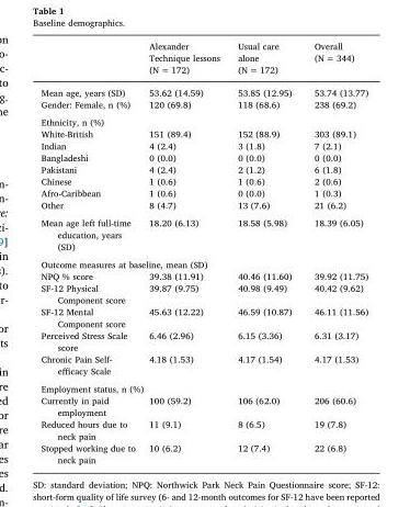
<table><thead><tr><td></td><td>Alexander Technique lessons (N = 172)</td><td>Usual care alone (N = 172)</td><td>Overall (N = 344)</td></tr></thead><tbody><tr><td>Mean age, years (SD)</td><td>53.62 (14.59)</td><td>53.85 (12.95)</td><td>53.74 (13.77)</td></tr><tr><td>Gender: Female, n (%)</td><td>120 (69.8)</td><td>118 (68.6)</td><td>238 (69.2)</td></tr><tr><td colspan="4">Ethnicity, n (%)</td></tr><tr><td>White-British</td><td>151 (89.4)</td><td>152 (88.9)</td><td>303 (89.1)</td></tr><tr><td>Indian</td><td>4 (2.4)</td><td>3 (1.8)</td><td>7 (2.1)</td></tr><tr><td>Bangladeshi</td><td>0 (0.0)</td><td>0 (0.0)</td><td>0 (0.0)</td></tr><tr><td>Pakistani</td><td>4 (2.4)</td><td>2 (1.2)</td><td>6 (1.8)</td></tr><tr><td>Chinese</td><td>1 (0.6)</td><td>1 (0.6)</td><td>2 (0.6)</td></tr><tr><td>Afro-Caribbean</td><td>1 (0.6)</td><td>0 (0.0)</td><td>1 (0.3)</td></tr><tr><td>Other</td><td>8 (4.7)</td><td>13 (7.6)</td><td>21 (6.2)</td></tr><tr><td>Mean age left full-time education, years (SD)</td><td>18.20 (6.13)</td><td>18.58 (5.98)</td><td>18.39 (6.05)</td></tr><tr><td colspan="4">Outcome measures at baseline, mean (SD)</td></tr><tr><td>NPQ % score</td><td>39.38 (11.91)</td><td>40.46 (11.60)</td><td>39.92 (11.75)</td></tr><tr><td>SF-12 Physical Component score</td><td>39.87 (9.75)</td><td>40.98 (9.49)</td><td>40.42 (9.62)</td></tr><tr><td>SF-12 Mental Component score</td><td>45.63 (12.22)</td><td>46.59 (10.87)</td><td>46.11 (11.56)</td></tr><tr><td>Perceived Stress Scale score</td><td>6.46 (2.96)</td><td>6.15 (3.36)</td><td>6.31 (3.17)</td></tr><tr><td>Chronic Pain Self- efficacy Scale</td><td>4.18 (1.53)</td><td>4.17 (1.54)</td><td>4.17 (1.53)</td></tr><tr><td colspan="4">Employment status, n (%)</td></tr><tr><td>Currently in paid employment</td><td>100 (59.2)</td><td>106 (62.0)</td><td>206 (60.6)</td></tr><tr><td>Reduced hours due to neck pain</td><td>11 (9.1)</td><td>8 (6.5)</td><td>19 (7.8)</td></tr><tr><td>Stopped working due to neck pain</td><td>10 (6.2)</td><td>12 (7.4)</td><td>22 (6.8)</td></tr></tbody></table>